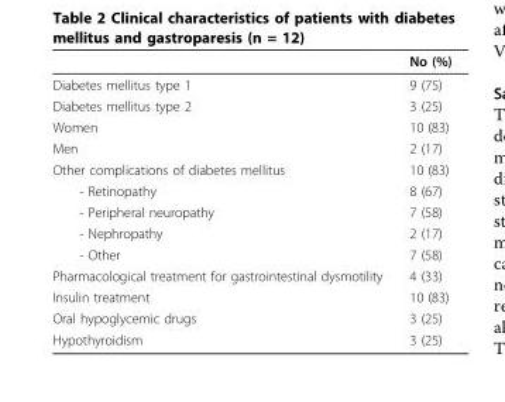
<table><thead><tr><td></td><td>No (%)</td></tr></thead><tbody><tr><td>Diabetes mellitus type 1</td><td>9 (75)</td></tr><tr><td>Diabetes mellitus type 2</td><td>3 (25)</td></tr><tr><td>Women</td><td>10 (83)</td></tr><tr><td>Men</td><td>2 (17)</td></tr><tr><td>Other complications of diabetes mellitus</td><td>10 (83)</td></tr><tr><td>- Retinopathy</td><td>8 (67)</td></tr><tr><td>- Peripheral neuropathy</td><td>7 (58)</td></tr><tr><td>- Nephropathy</td><td>2 (17)</td></tr><tr><td>- Other</td><td>7 (58)</td></tr><tr><td>Pharmacological treatment for gastrointestinal dysmotility</td><td>4 (33)</td></tr><tr><td>Insulin treatment</td><td>10 (83)</td></tr><tr><td>Oral hypoglycemic drugs</td><td>3 (25)</td></tr><tr><td>Hypothyroidism</td><td>3 (25)</td></tr></tbody></table>